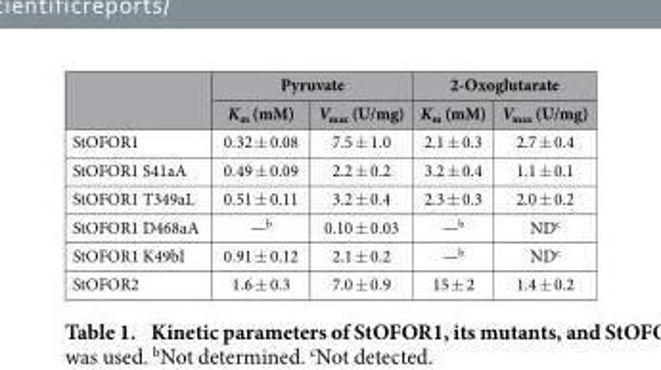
<table><thead><tr><td rowspan="2"></td><td colspan="2">Pyruvate</td><td colspan="2">2-Oxoglutarate</td></tr><tr><td>K<sub>m</sub> (mM)</td><td>V<sub>max</sub> (U/mg)</td><td>K<sub>m</sub> (mM)</td><td>V<sub>max</sub> (U/mg)</td></tr></thead><tbody><tr><td>StOFOR1</td><td>0.32 ± 0.08</td><td>7.5 ± 1.0</td><td>2.1 ± 0.3</td><td>2.7 ± 0.4</td></tr><tr><td>StOFOR1 S41aA</td><td>0.49 ± 0.09</td><td>2.2 ± 0.2</td><td>3.2 ± 0.4</td><td>1.1 ± 0.1</td></tr><tr><td>StOFOR1 T349aL</td><td>0.51 ± 0.11</td><td>3.2 ± 0.4</td><td>2.3 ± 0.3</td><td>2.0 ± 0.2</td></tr><tr><td>StOFOR1 D468aA</td><td>—b</td><td>0.10 ± 0.03</td><td>—<sup>b</sup></td><td>ND<sup>c</sup></td></tr><tr><td>StOFOR1 K49bI</td><td>0.91 ± 0.12</td><td>2.1 ± 0.2</td><td>—b</td><td>ND<sup>c</sup></td></tr><tr><td>StOFOR2</td><td>1.6 ± 0.3</td><td>7.0 ± 0.9</td><td>15 ± 2</td><td>1.4 ± 0.2</td></tr></tbody></table>